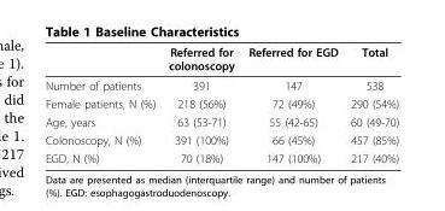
<table><thead><tr><td></td><td>Referred for colonoscopy</td><td>Referred for EGD</td><td>Total</td></tr></thead><tbody><tr><td>Number of patients</td><td>391</td><td>147</td><td>538</td></tr><tr><td>Female patients, N (%)</td><td>218 (56%)</td><td>72 (49%)</td><td>290 (54%)</td></tr><tr><td>Age, years</td><td>63 (53-71)</td><td>55 (42-65)</td><td>60 (49-70)</td></tr><tr><td>Colonoscopy, N (%)</td><td>391 (100%)</td><td>66 (45%)</td><td>457 (85%)</td></tr><tr><td>EGD, N (%)</td><td>70 (18%)</td><td>147 (100%)</td><td>217 (40%)</td></tr></tbody></table>